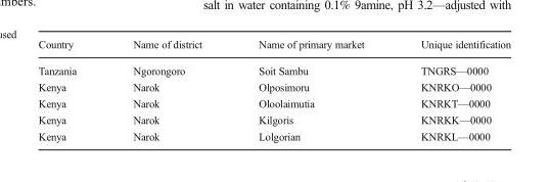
<table><thead><tr><td>Country</td><td>Name of district</td><td>Name of primary market</td><td>Unique identification</td></tr></thead><tbody><tr><td>Tanzania</td><td>Ngorongoro</td><td>Soit Sambu</td><td>TNGRS—0000</td></tr><tr><td>Kenya</td><td>Narok</td><td>Olposimoru</td><td>KNRKO—0000</td></tr><tr><td>Kenya</td><td>Narok</td><td>Oloolaimutia</td><td>KNRKT—0000</td></tr><tr><td>Kenya</td><td>Narok</td><td>Kilgoris</td><td>KNRKK—0000</td></tr><tr><td>Kenya</td><td>Narok</td><td>Lolgorian</td><td>KNRKL—0000</td></tr></tbody></table>